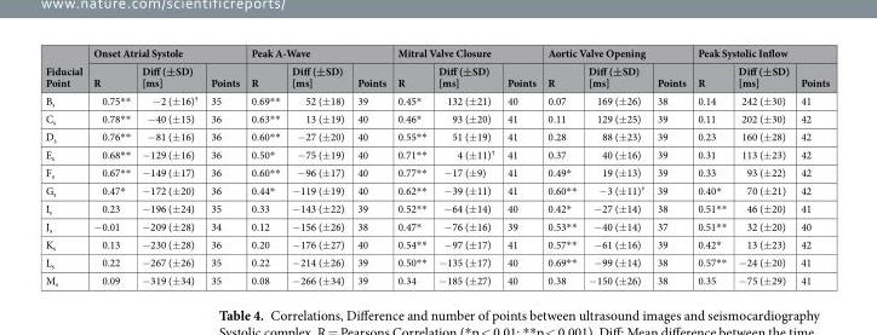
<table><thead><tr><td rowspan="2">Fiducial Point</td><td colspan="3">Onset Atrial Systole</td><td colspan="3">Peak A-Wave</td><td colspan="3">Mitral Valve Closure</td><td colspan="3">Aortic Valve Opening</td><td colspan="3">Peak Systolic Inflow</td></tr><tr><td>R</td><td>Diff (±SD) [ms]</td><td>Points</td><td>R</td><td>Diff (±SD) [ms]</td><td>Points</td><td>R</td><td>Diff (±SD) [ms]</td><td>Points</td><td>R</td><td>Diff (±SD) [ms]</td><td>Points</td><td>R</td><td>Diff (±SD) [ms]</td><td>Points</td></tr></thead><tbody><tr><td>B<sub>s</sub></td><td>0.75**</td><td>−2 (±16)<sup>†</sup></td><td>35</td><td>0.69**</td><td>52 (±18)</td><td>39</td><td>0.45*</td><td>132 (±21)</td><td>40</td><td>0.07</td><td>169 (±26)</td><td>38</td><td>0.14</td><td>242 (±30)</td><td>41</td></tr><tr><td>C<sub>s</sub></td><td>0.78**</td><td>−40 (±15)</td><td>36</td><td>0.63**</td><td>13 (±19)</td><td>40</td><td>0.46*</td><td>93 (±20)</td><td>41</td><td>0.11</td><td>129 (±25)</td><td>39</td><td>0.11</td><td>202 (±30)</td><td>42</td></tr><tr><td>D<sub>s</sub></td><td>0.76**</td><td>−81 (±16)</td><td>36</td><td>0.60**</td><td>−27 (±20)</td><td>40</td><td>0.55**</td><td>51 (±19)</td><td>41</td><td>0.28</td><td>88 (±23)</td><td>39</td><td>0.23</td><td>160 (±28)</td><td>42</td></tr><tr><td>E<sub>s</sub></td><td>0.68**</td><td>−129 (±16)</td><td>36</td><td>0.50*</td><td>−75 (±19)</td><td>40</td><td>0.71**</td><td>4 (±11)<sup>†</sup></td><td>41</td><td>0.37</td><td>40 (±16)</td><td>39</td><td>0.31</td><td>113 (±23)</td><td>42</td></tr><tr><td>F<sub>s</sub></td><td>0.67**</td><td>−149 (±17)</td><td>36</td><td>0.60**</td><td>−96 (±17)</td><td>40</td><td>0.77**</td><td>−17 (±9)</td><td>41</td><td>0.49*</td><td>19 (±13)</td><td>39</td><td>0.33</td><td>93 (±22)</td><td>42</td></tr><tr><td>G<sub>s</sub></td><td>0.47*</td><td>−172 (±20)</td><td>36</td><td>0.44*</td><td>−119 (±19)</td><td>40</td><td>0.62**</td><td>−39 (±11)</td><td>41</td><td>0.60**</td><td>−3 (±11)<sup>†</sup></td><td>39</td><td>0.40*</td><td>70 (±21)</td><td>42</td></tr><tr><td>I<sub>s</sub></td><td>0.23</td><td>−196 (±24)</td><td>35</td><td>0.33</td><td>−143 (±22)</td><td>39</td><td>0.52**</td><td>−64 (±14)</td><td>40</td><td>0.42*</td><td>−27 (±14)</td><td>38</td><td>0.51**</td><td>46 (±20)</td><td>41</td></tr><tr><td>J<sub>s</sub></td><td>−0.01</td><td>−209 (±28)</td><td>34</td><td>0.12</td><td>−156 (±26)</td><td>38</td><td>0.47*</td><td>−76 (±16)</td><td>39</td><td>0.53**</td><td>−40 (±14)</td><td>37</td><td>0.51**</td><td>32 (±20)</td><td>40</td></tr><tr><td>K<sub>s</sub></td><td>0.13</td><td>−230 (±28)</td><td>36</td><td>0.20</td><td>−176 (±27)</td><td>40</td><td>0.54**</td><td>−97 (±17)</td><td>41</td><td>0.57**</td><td>−61 (±16)</td><td>39</td><td>0.42*</td><td>13 (±23)</td><td>42</td></tr><tr><td>L<sub>s</sub></td><td>0.22</td><td>−267 (±26)</td><td>35</td><td>0.22</td><td>−214 (±26)</td><td>39</td><td>0.50**</td><td>−135 (±17)</td><td>40</td><td>0.69**</td><td>−99 (±14)</td><td>38</td><td>0.57**</td><td>−24 (±20)</td><td>41</td></tr><tr><td>M<sub>s</sub></td><td>0.09</td><td>−319 (±34)</td><td>35</td><td>0.08</td><td>−266 (±34)</td><td>39</td><td>0.34</td><td>−185 (±27)</td><td>40</td><td>0.38</td><td>−150 (±26)</td><td>38</td><td>0.35</td><td>−75 (±29)</td><td>41</td></tr></tbody></table>